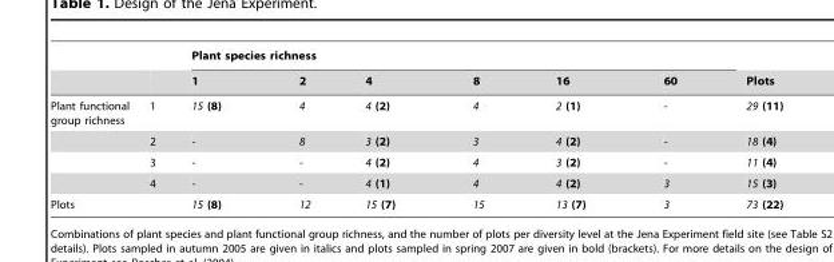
<table><thead><tr><td rowspan="2"></td><td rowspan="2"></td><td colspan="6">Plant species richness</td><td rowspan="2">Plots</td></tr><tr><td>1</td><td>2</td><td>4</td><td>8</td><td>16</td><td>60</td></tr></thead><tbody><tr><td rowspan="4">Plant functional group richness</td><td>1</td><td>15 (8)</td><td>4</td><td>4 (2)</td><td>4</td><td>2 (1)</td><td>-</td><td>29 (11)</td></tr><tr><td>2</td><td>-</td><td>8</td><td>3 (2)</td><td>3</td><td>4 (2)</td><td>-</td><td>18 (4)</td></tr><tr><td>3</td><td>-</td><td>-</td><td>4 (2)</td><td>4</td><td>3 (2)</td><td>-</td><td>11 (4)</td></tr><tr><td>4</td><td>-</td><td>-</td><td>4 (1)</td><td>4</td><td>4 (2)</td><td>3</td><td>15 (3)</td></tr><tr><td colspan="2">Plots</td><td>15 (8)</td><td>12</td><td>15 (7)</td><td>15</td><td>13 (7)</td><td>3</td><td>73 (22)</td></tr></tbody></table>